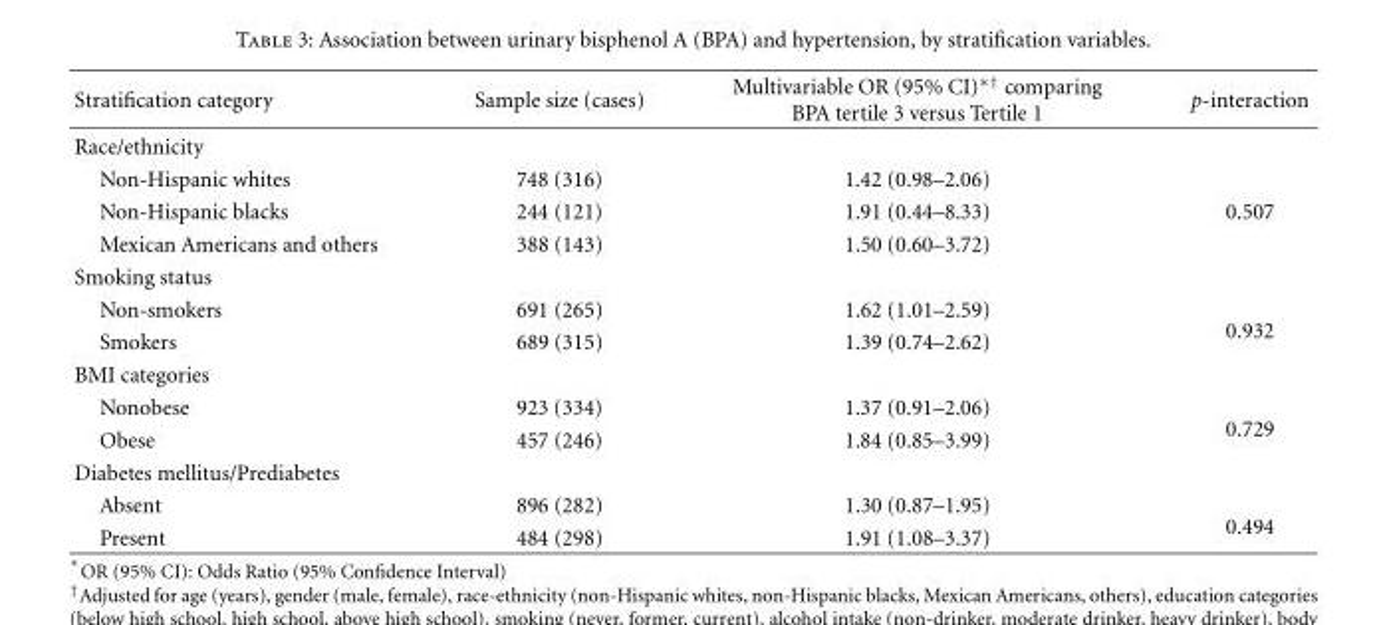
<table><thead><tr><td>Stratification category</td><td>Sample size (cases)</td><td>Multivariable OR (95% CI)<sup>∗†</sup> comparing BPA tertile 3 versus Tertile 1</td><td>p-interaction</td></tr></thead><tbody><tr><td colspan="4">Race/ethnicity</td></tr><tr><td>Non-Hispanic whites</td><td>748 (316)</td><td>1.42 (0.98–2.06)</td><td></td></tr><tr><td>Non-Hispanic blacks</td><td>244 (121)</td><td>1.91 (0.44–8.33)</td><td>0.507</td></tr><tr><td>Mexican Americans and others</td><td>388 (143)</td><td>1.50 (0.60–3.72)</td><td></td></tr><tr><td colspan="4">Smoking status</td></tr><tr><td>Non-smokers</td><td>691 (265)</td><td>1.62 (1.01–2.59)</td><td rowspan="2">0.932</td></tr><tr><td>Smokers</td><td>689 (315)</td><td>1.39 (0.74–2.62)</td></tr><tr><td colspan="4">BMI categories</td></tr><tr><td>Nonobese</td><td>923 (334)</td><td>1.37 (0.91–2.06)</td><td rowspan="2">0.729</td></tr><tr><td>Obese</td><td>457 (246)</td><td>1.84 (0.85–3.99)</td></tr><tr><td colspan="4">Diabetes mellitus/Prediabetes</td></tr><tr><td>Absent</td><td>896 (282)</td><td>1.30 (0.87–1.95)</td><td rowspan="2">0.494</td></tr><tr><td>Present</td><td>484 (298)</td><td>1.91 (1.08–3.37)</td></tr></tbody></table>